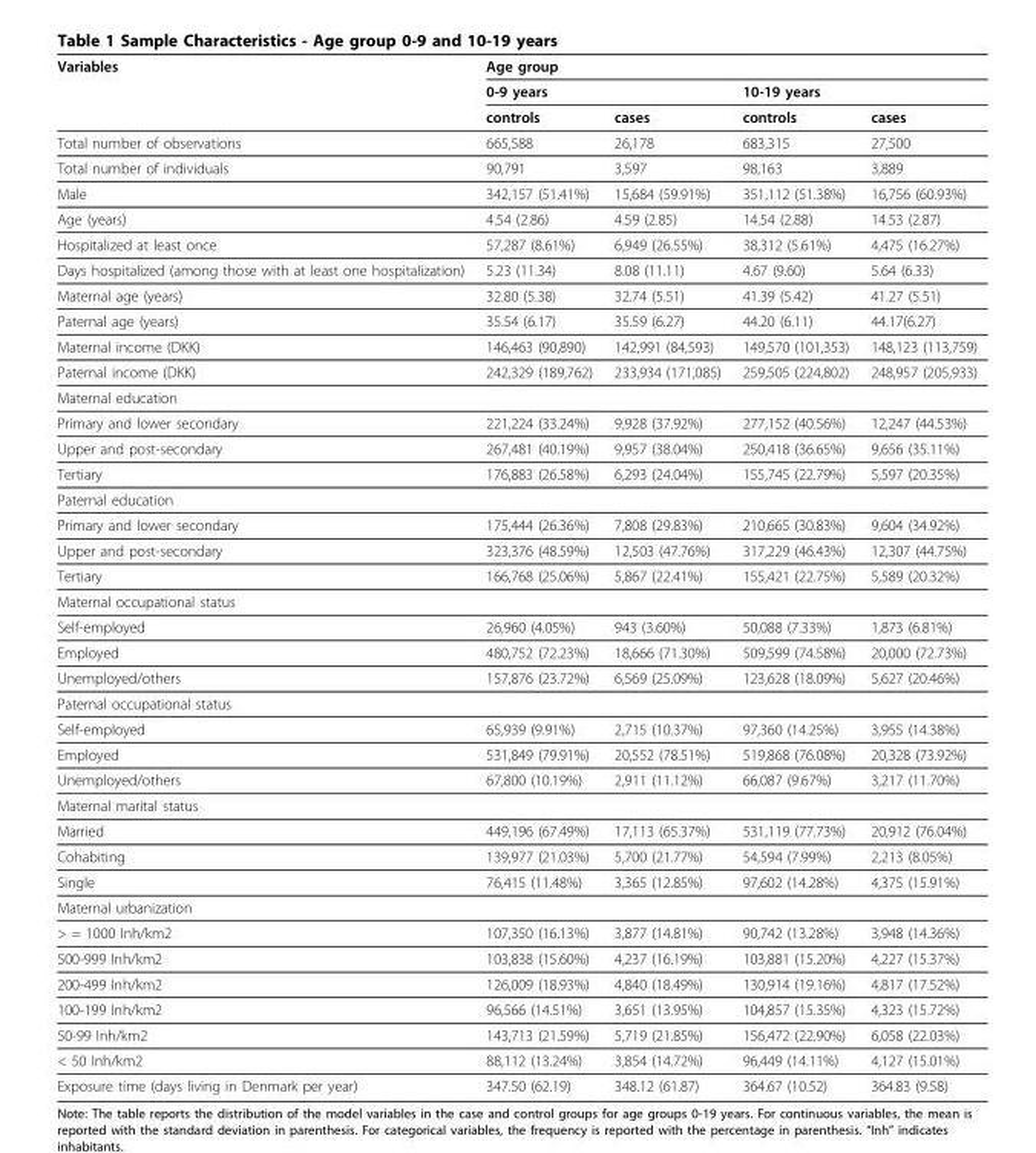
<table><thead><tr><td rowspan="3">Variables</td><td rowspan="3">Age group 0-9 years controls</td><td rowspan="3">cases</td><td rowspan="3">10-19 years controls</td><td rowspan="3">cases</td></tr><tr></tr><tr></tr></thead><tbody><tr><td>Total number of observations</td><td>665,588</td><td>26,178</td><td>683,315</td><td>27,500</td></tr><tr><td>Total number of individuals</td><td>90,791</td><td>3,597</td><td>98,163</td><td>3,889</td></tr><tr><td>Male</td><td>342,157 (51.41%)</td><td>15,684 (59.91%)</td><td>351,112 (51.38%)</td><td>16,756 (60.93%)</td></tr><tr><td>Age (years)</td><td>4.54 (2.86)</td><td>4.59 (2.85)</td><td>14.54 (2.88)</td><td>14.53 (2.87)</td></tr><tr><td>Hospitalized at least once</td><td>57,287 (8.61%)</td><td>6,949 (26.55%)</td><td>38,312 (5.61%)</td><td>4,475 (16.27%)</td></tr><tr><td>Days hospitalized (among those with at least one hospitalization)</td><td>5.23 (11.34)</td><td>8.08 (11.11)</td><td>4.67 (9.60)</td><td>5.64 (6.33)</td></tr><tr><td>Maternal age (years)</td><td>32.80 (5.38)</td><td>32.74 (5.51)</td><td>41.39 (5.42)</td><td>41.27 (5.51)</td></tr><tr><td>Paternal age (years)</td><td>35.54 (6.17)</td><td>35.59 (6.27)</td><td>44.20 (6.11)</td><td>44.17(6.27)</td></tr><tr><td>Maternal income (DKK)</td><td>146,463 (90,890)</td><td>142,991 (84,593)</td><td>149,570 (101,353)</td><td>148,123 (113,759)</td></tr><tr><td>Paternal income (DKK)</td><td>242,329 (189,762)</td><td>233,934 (171,085)</td><td>259,505 (224,802)</td><td>248,957 (205,933)</td></tr><tr><td colspan="5">Maternal education</td></tr><tr><td>Primary and lower secondary</td><td>221,224 (33.24%)</td><td>9,928 (37.92%)</td><td>277,152 (40.56%)</td><td>12,247 (44.53%)</td></tr><tr><td>Upper and post-secondary</td><td>267,481 (40.19%)</td><td>9,957 (38.04%)</td><td>250,418 (36.65%)</td><td>9,656 (35.11%)</td></tr><tr><td>Tertiary</td><td>176,883 (26.58%)</td><td>6,293 (24.04%)</td><td>155,745 (22.79%)</td><td>5,597 (20.35%)</td></tr><tr><td colspan="5">Paternal education</td></tr><tr><td>Primary and lower secondary</td><td>175,444 (26.36%)</td><td>7,808 (29.83%)</td><td>210,665 (30.83%)</td><td>9,604 (34.92%)</td></tr><tr><td>Upper and post-secondary</td><td>323,376 (48.59%)</td><td>12,503 (47.76%)</td><td>317,229 (46.43%)</td><td>12,307 (44.75%)</td></tr><tr><td>Tertiary</td><td>166,768 (25.06%)</td><td>5,867 (22.41%)</td><td>155,421 (22.75%)</td><td>5,589 (20.32%)</td></tr><tr><td colspan="5">Maternal occupational status</td></tr><tr><td>Self-employed</td><td>26,960 (4.05%)</td><td>943 (3.60%)</td><td>50,088 (7.33%)</td><td>1,873 (6.81%)</td></tr><tr><td>Employed</td><td>480,752 (72.23%)</td><td>18,666 (71.30%)</td><td>509,599 (74.58%)</td><td>20,000 (72.73%)</td></tr><tr><td>Unemployed/others</td><td>157,876 (23.72%)</td><td>6,569 (25.09%)</td><td>123,628 (18.09%)</td><td>5,627 (20.46%)</td></tr><tr><td colspan="5">Paternal occupational status</td></tr><tr><td>Self-employed</td><td>65,939 (9.91%)</td><td>2,715 (10.37%)</td><td>97,360 (14.25%)</td><td>3,955 (14.38%)</td></tr><tr><td>Employed</td><td>531,849 (79.91%)</td><td>20,552 (78.51%)</td><td>519,868 (76.08%)</td><td>20,328 (73.92%)</td></tr><tr><td>Unemployed/others</td><td>67,800 (10.19%)</td><td>2,911 (11.12%)</td><td>66,087 (9.67%)</td><td>3,217 (11.70%)</td></tr><tr><td colspan="5">Maternal marital status</td></tr><tr><td>Married</td><td>449,196 (67.49%)</td><td>17,113 (65.37%)</td><td>531,119 (77.73%)</td><td>20,912 (76.04%)</td></tr><tr><td>Cohabiting</td><td>139,977 (21.03%)</td><td>5,700 (21.77%)</td><td>54,594 (7.99%)</td><td>2,213 (8.05%)</td></tr><tr><td>Single</td><td>76,415 (11.48%)</td><td>3,365 (12.85%)</td><td>97,602 (14.28%)</td><td>4,375 (15.91%)</td></tr><tr><td colspan="5">Maternal urbanization</td></tr><tr><td>&gt; = 1000 Inh/km2</td><td>107,350 (16.13%)</td><td>3,877 (14.81%)</td><td>90,742 (13.28%)</td><td>3,948 (14.36%)</td></tr><tr><td>500-999 Inh/km2</td><td>103,838 (15.60%)</td><td>4,237 (16.19%)</td><td>103,881 (15.20%)</td><td>4,227 (15.37%)</td></tr><tr><td>200-499 Inh/km2</td><td>126,009 (18.93%)</td><td>4,840 (18.49%)</td><td>130,914 (19.16%)</td><td>4,817 (17.52%)</td></tr><tr><td>100-199 Inh/km2</td><td>96,566 (14.51%)</td><td>3,651 (13.95%)</td><td>104,857 (15.35%)</td><td>4,323 (15.72%)</td></tr><tr><td>50-99 Inh/km2</td><td>143,713 (21.59%)</td><td>5,719 (21.85%)</td><td>156,472 (22.90%)</td><td>6,058 (22.03%)</td></tr><tr><td>&lt; 50 Inh/km2</td><td>88,112 (13.24%)</td><td>3,854 (14.72%)</td><td>96,449 (14.11%)</td><td>4,127 (15.01%)</td></tr><tr><td>Exposure time (days living in Denmark per year)</td><td>347.50 (62.19)</td><td>348.12 (61.87)</td><td>364.67 (10.52)</td><td>364.83 (9.58)</td></tr></tbody></table>